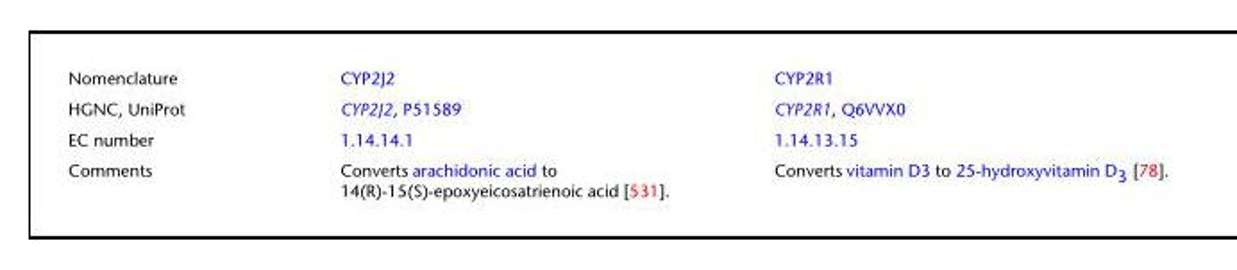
<table><tbody><tr><td>Nomenclature</td><td>CYP2J2</td><td>CYP2R1</td></tr><tr><td>HGNC, UniProt</td><td>CYP2J2, P51589</td><td>CYP2R1, Q6VVX0</td></tr><tr><td>EC number</td><td>1.14.14.1</td><td>1.14.13.15</td></tr><tr><td>Comments</td><td>Converts arachidonic acid to 14(R)-15(S)-epoxyeicosatrienoic acid [531].</td><td>Converts vitamin D3 to 25-hydroxyvitamin D<sub>3</sub> [78].</td></tr></tbody></table>